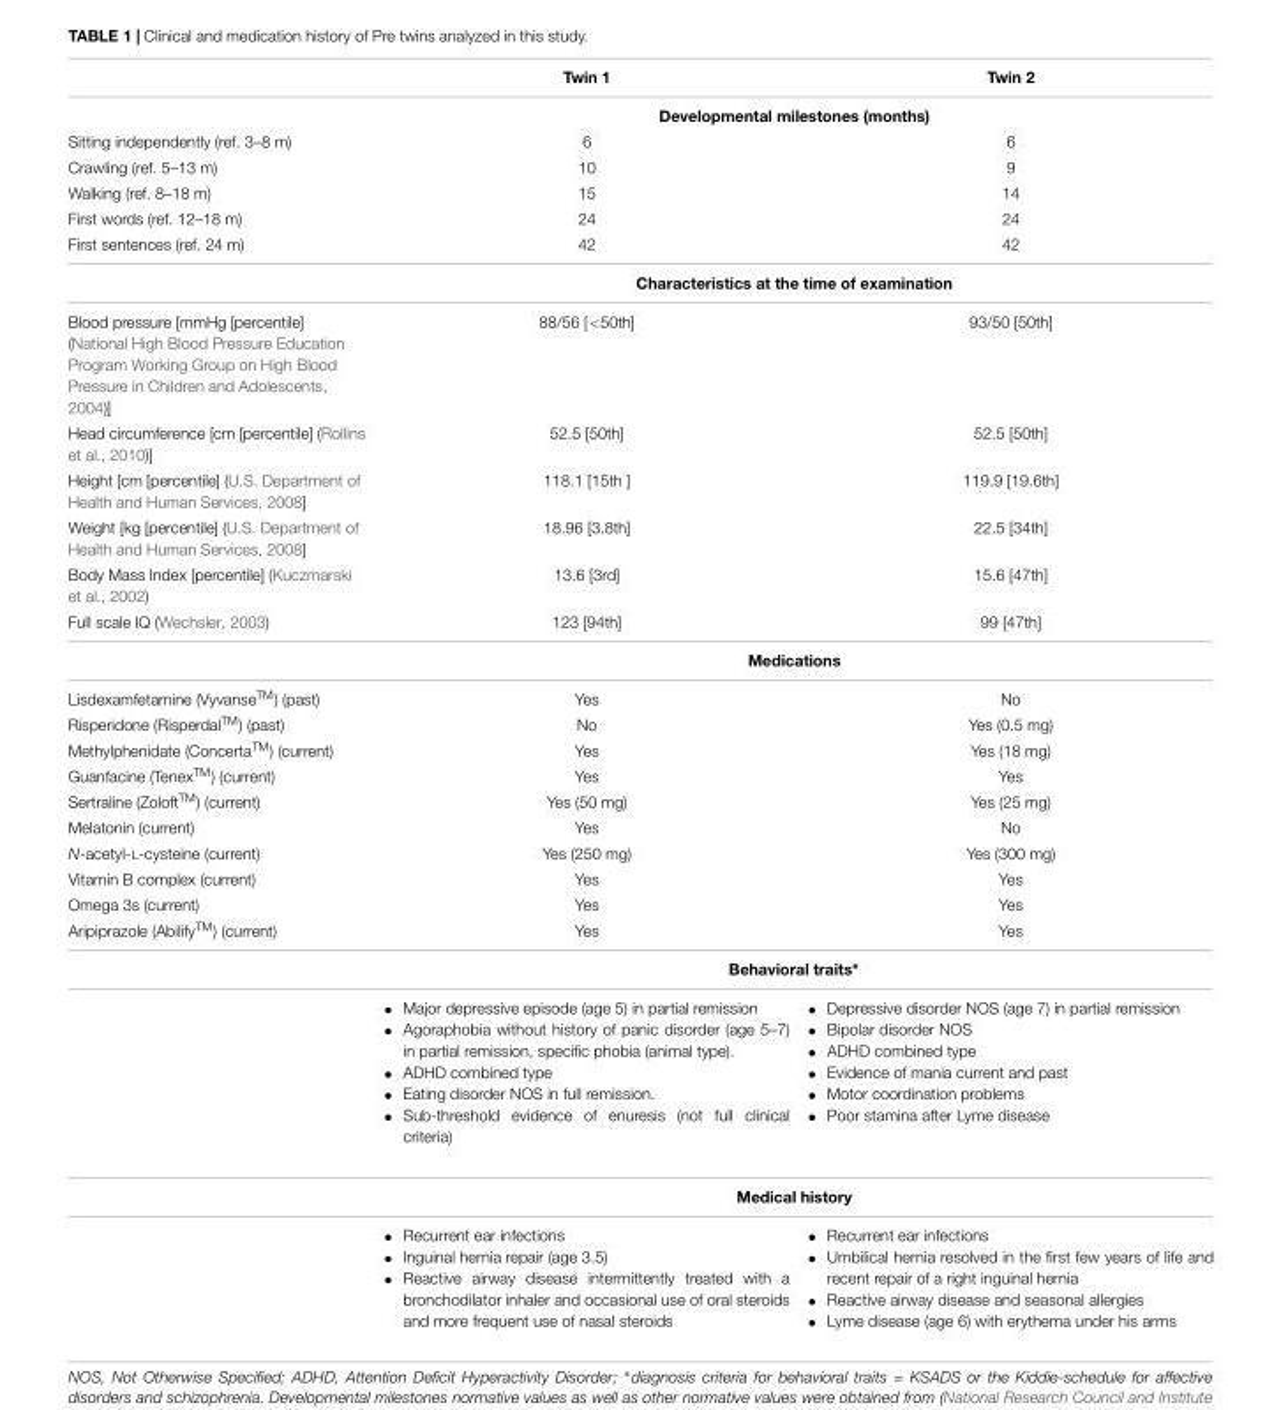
<table><thead><tr><td></td><td>Twin 1</td><td>Twin 2</td></tr></thead><tbody><tr><td></td><td colspan="2">Developmental milestones (months)</td></tr><tr><td>Sitting independently (ref. 3–8 m)</td><td>6</td><td>6</td></tr><tr><td>Crawling (ref. 5–13 m)</td><td>10</td><td>9</td></tr><tr><td>Walking (ref. 8–18 m)</td><td>15</td><td>14</td></tr><tr><td>First words (ref. 12–18 m)</td><td>24</td><td>24</td></tr><tr><td rowspan="2">First sentences (ref. 24 m)</td><td>42</td><td>42</td></tr><tr><td colspan="2">Characteristics at the time of examination</td></tr><tr><td>Blood pressure [mmHg [percentile] (National High Blood Pressure Education Program Working Group on High Blood Pressure in Children and Adolescents, 2004)]</td><td>88/56 [&lt;50th]</td><td>93/50 [50th]</td></tr><tr><td>Head circumference [cm [percentile] (Rollins et al., 2010)]</td><td>52.5 [50th]</td><td>52.5 [50th]</td></tr><tr><td>Height [cm [percentile] (U.S. Department of Health and Human Services, 2008]</td><td>118.1 [15th ]</td><td>119.9 [19.6th]</td></tr><tr><td>Weight [kg [percentile] (U.S. Department of Health and Human Services, 2008]</td><td>18.96 [3.8th]</td><td>22.5 [34th]</td></tr><tr><td>Body Mass Index [percentile] (Kuczmarski et al., 2002)</td><td>13.6 [3rd]</td><td>15.6 [47th]</td></tr><tr><td rowspan="2">Full scale IQ (Wechsler, 2003)</td><td>123 [94th]</td><td>99 [47th]</td></tr><tr><td colspan="2">Medications</td></tr><tr><td>Lisdexamfetamine (Vyvanse<sup>TM</sup>) (past)</td><td>Yes</td><td>No</td></tr><tr><td>Risperidone (Risperdal<sup>TM</sup>) (past)</td><td>No</td><td>Yes (0.5 mg)</td></tr><tr><td>Methylphenidate (Concerta<sup>TM</sup>) (current)</td><td>Yes</td><td>Yes (18 mg)</td></tr><tr><td>Guanfacine (Tenex<sup>TM</sup>) (current)</td><td>Yes</td><td>Yes</td></tr><tr><td>Sertraline (Zoloft<sup>TM</sup>) (current)</td><td>Yes (50 mg)</td><td>Yes (25 mg)</td></tr><tr><td>Melatonin (current)</td><td>Yes</td><td>No</td></tr><tr><td>N-acetyl-L-cysteine (current)</td><td>Yes (250 mg)</td><td>Yes (300 mg)</td></tr><tr><td>Vitamin B complex (current)</td><td>Yes</td><td>Yes</td></tr><tr><td>Omega 3s (current)</td><td>Yes</td><td>Yes</td></tr><tr><td rowspan="5">Aripiprazole (Abilify<sup>TM</sup>) (current)</td><td>Yes</td><td>Yes</td></tr><tr><td colspan="2">Behavioral traits∗</td></tr><tr><td>• Major depressive episode (age 5) in partial remission • Agoraphobia without history of panic disorder (age 5–7) in partial remission, specific phobia (animal type). • ADHD combined type • Eating disorder NOS in full remission. • Sub-threshold evidence of enuresis (not full clinical criteria)</td><td>• Depressive disorder NOS (age 7) in partial remission • Bipolar disorder NOS • ADHD combined type • Evidence of mania current and past • Motor coordination problems • Poor stamina after Lyme disease</td></tr><tr><td colspan="2">Medical history</td></tr><tr><td>• Recurrent ear infections • Inguinal hernia repair (age 3.5) • Reactive airway disease intermittently treated with a bronchodilator inhaler and occasional use of oral steroids and more frequent use of nasal steroids</td><td>• Recurrent ear infections • Umbilical hernia resolved in the first few years of life and recent repair of a right inguinal hernia • Reactive airway disease and seasonal allergies • Lyme disease (age 6) with erythema under his arms</td></tr></tbody></table>